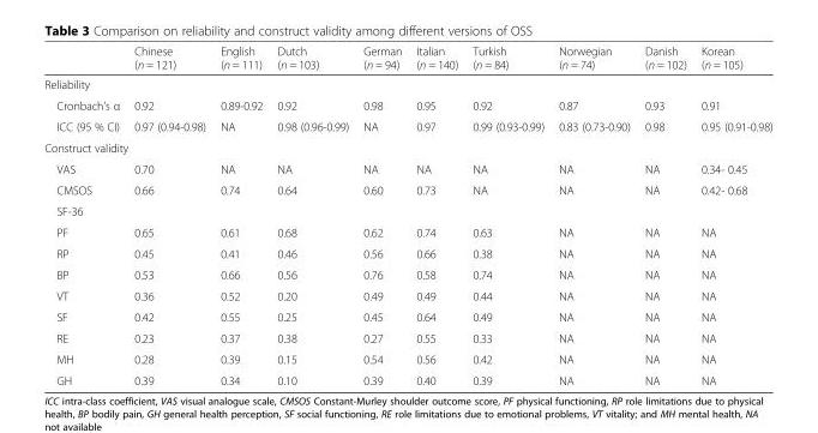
<table><thead><tr><td></td><td>Chinese (n = 121)</td><td>English (n = 111)</td><td>Dutch (n = 103)</td><td>German (n = 94)</td><td>Italian (n = 140)</td><td>Turkish (n = 84)</td><td>Norwegian (n = 74)</td><td>Danish (n = 102)</td><td>Korean (n = 105)</td></tr></thead><tbody><tr><td colspan="10">Reliability</td></tr><tr><td>Cronbach’s α</td><td>0.92</td><td>0.89-0.92</td><td>0.92</td><td>0.98</td><td>0.95</td><td>0.92</td><td>0.87</td><td>0.93</td><td>0.91</td></tr><tr><td>ICC (95 % CI)</td><td>0.97 (0.94-0.98)</td><td>NA</td><td>0.98 (0.96-0.99)</td><td>NA</td><td>0.97</td><td>0.99 (0.93-0.99)</td><td>0.83 (0.73-0.90)</td><td>0.98</td><td>0.95 (0.91-0.98)</td></tr><tr><td colspan="10">Construct validity</td></tr><tr><td>VAS</td><td>0.70</td><td>NA</td><td>NA</td><td>NA</td><td>NA</td><td>NA</td><td>NA</td><td>NA</td><td>0.34- 0.45</td></tr><tr><td>CMSOS</td><td>0.66</td><td>0.74</td><td>0.64</td><td>0.60</td><td>0.73</td><td>NA</td><td>NA</td><td>NA</td><td>0.42- 0.68</td></tr><tr><td colspan="10">SF-36</td></tr><tr><td>PF</td><td>0.65</td><td>0.61</td><td>0.68</td><td>0.62</td><td>0.74</td><td>0.63</td><td>NA</td><td>NA</td><td>NA</td></tr><tr><td>RP</td><td>0.45</td><td>0.41</td><td>0.46</td><td>0.56</td><td>0.66</td><td>0.38</td><td>NA</td><td>NA</td><td>NA</td></tr><tr><td>BP</td><td>0.53</td><td>0.66</td><td>0.56</td><td>0.76</td><td>0.58</td><td>0.74</td><td>NA</td><td>NA</td><td>NA</td></tr><tr><td>VT</td><td>0.36</td><td>0.52</td><td>0.20</td><td>0.49</td><td>0.49</td><td>0.44</td><td>NA</td><td>NA</td><td>NA</td></tr><tr><td>SF</td><td>0.42</td><td>0.55</td><td>0.25</td><td>0.45</td><td>0.64</td><td>0.49</td><td>NA</td><td>NA</td><td>NA</td></tr><tr><td>RE</td><td>0.23</td><td>0.37</td><td>0.38</td><td>0.27</td><td>0.55</td><td>0.33</td><td>NA</td><td>NA</td><td>NA</td></tr><tr><td>MH</td><td>0.28</td><td>0.39</td><td>0.15</td><td>0.54</td><td>0.56</td><td>0.42</td><td>NA</td><td>NA</td><td>NA</td></tr><tr><td>GH</td><td>0.39</td><td>0.34</td><td>0.10</td><td>0.39</td><td>0.40</td><td>0.39</td><td>NA</td><td>NA</td><td>NA</td></tr></tbody></table>